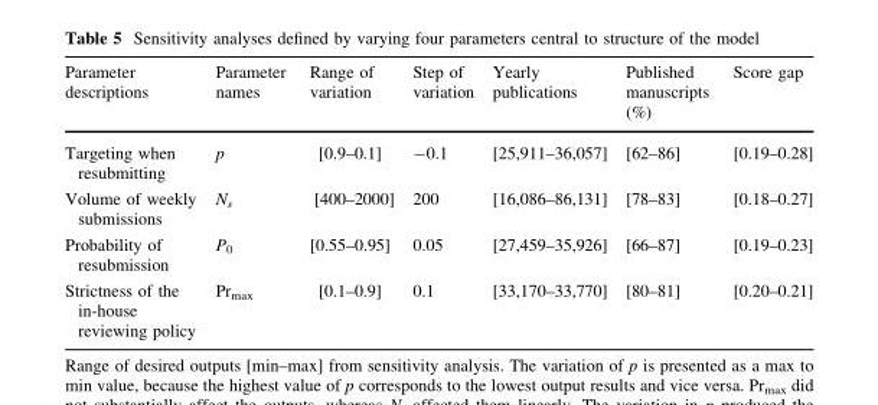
<table><thead><tr><td>Parameter descriptions</td><td>Parameter names</td><td>Range of variation</td><td>Step of variation</td><td>Yearly publications</td><td>Published manuscripts (%)</td><td>Score gap</td></tr></thead><tbody><tr><td>Targeting when resubmitting</td><td>p</td><td>[0.9–0.1]</td><td>-0.1</td><td>[25,911–36,057]</td><td>[62–86]</td><td>[0.19–0.28]</td></tr><tr><td>Volume of weekly submissions</td><td>N<sub>s</sub></td><td>[400–2000]</td><td>200</td><td>[16,086–86,131]</td><td>[78–83]</td><td>[0.18–0.27]</td></tr><tr><td>Probability of resubmission</td><td>P<sub>0</sub></td><td>[0.55–0.95]</td><td>0.05</td><td>[27,459–35,926]</td><td>[66–87]</td><td>[0.19–0.23]</td></tr><tr><td>Strictness of the in-house reviewing policy</td><td>Pr<sub>max</sub></td><td>[0.1–0.9]</td><td>0.1</td><td>[33,170–33,770]</td><td>[80–81]</td><td>[0.20–0.21]</td></tr></tbody></table>